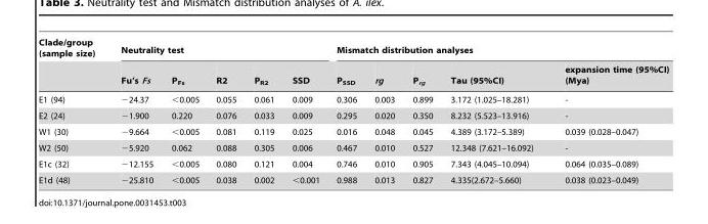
<table><thead><tr><td rowspan="2">Clade/group (sample size)</td><td colspan="5">Neutrality test</td><td colspan="5">Mismatch distribution analyses</td></tr><tr><td>Fu’s Fs</td><td>P<sub>Fs</sub></td><td>R2</td><td>P<sub>R2</sub></td><td>SSD</td><td>P<sub>SSD</sub></td><td>rg</td><td>P<sub>rg</sub></td><td>Tau (95%CI)</td><td>expansion time (95%CI) (Mya)</td></tr></thead><tbody><tr><td>E1 (94)</td><td>−24.37</td><td>&lt;0.005</td><td>0.055</td><td>0.061</td><td>0.009</td><td>0.306</td><td>0.003</td><td>0.899</td><td>3.172 (1.025–18.281)</td><td>-</td></tr><tr><td>E2 (24)</td><td>−1.900</td><td>0.220</td><td>0.076</td><td>0.033</td><td>0.009</td><td>0.295</td><td>0.020</td><td>0.350</td><td>8.232 (5.523–13.916)</td><td>-</td></tr><tr><td>W1 (30)</td><td>−9.664</td><td>&lt;0.005</td><td>0.081</td><td>0.119</td><td>0.025</td><td>0.016</td><td>0.048</td><td>0.045</td><td>4.389 (3.172–5.389)</td><td>0.039 (0.028–0.047)</td></tr><tr><td>W2 (50)</td><td>−5.920</td><td>0.062</td><td>0.088</td><td>0.305</td><td>0.006</td><td>0.467</td><td>0.010</td><td>0.527</td><td>12.348 (7.621–16.092)</td><td>-</td></tr><tr><td>E1c (32)</td><td>−12.155</td><td>&lt;0.005</td><td>0.080</td><td>0.121</td><td>0.004</td><td>0.746</td><td>0.010</td><td>0.905</td><td>7.343 (4.045–10.094)</td><td>0.064 (0.035–0.089)</td></tr><tr><td>E1d (48)</td><td>−25.810</td><td>&lt;0.005</td><td>0.038</td><td>0.002</td><td>&lt;0.001</td><td>0.988</td><td>0.013</td><td>0.827</td><td>4.335(2.672–5.660)</td><td>0.038 (0.023–0.049)</td></tr></tbody></table>